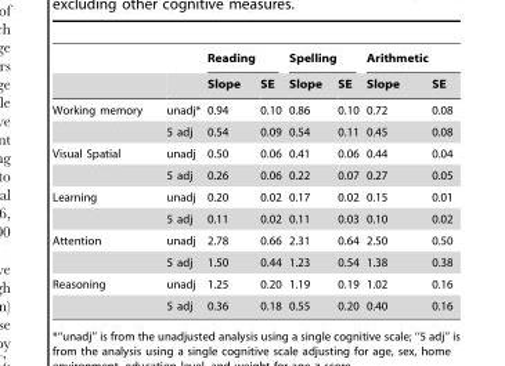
<table><thead><tr><td rowspan="2"></td><td rowspan="2"></td><td colspan="2">Reading</td><td colspan="2">Spelling</td><td colspan="2">Arithmetic</td></tr><tr><td>Slope</td><td>SE</td><td>Slope</td><td>SE</td><td>Slope</td><td>SE</td></tr></thead><tbody><tr><td rowspan="2">Working memory</td><td>unadj*</td><td>0.94</td><td>0.10</td><td>0.86</td><td>0.10</td><td>0.72</td><td>0.08</td></tr><tr><td>5 adj</td><td>0.54</td><td>0.09</td><td>0.54</td><td>0.11</td><td>0.45</td><td>0.08</td></tr><tr><td rowspan="2">Visual Spatial</td><td>unadj</td><td>0.50</td><td>0.06</td><td>0.41</td><td>0.06</td><td>0.44</td><td>0.04</td></tr><tr><td>5 adj</td><td>0.26</td><td>0.06</td><td>0.22</td><td>0.07</td><td>0.27</td><td>0.05</td></tr><tr><td rowspan="2">Learning</td><td>unadj</td><td>0.20</td><td>0.02</td><td>0.17</td><td>0.02</td><td>0.15</td><td>0.01</td></tr><tr><td>5 adj</td><td>0.11</td><td>0.02</td><td>0.11</td><td>0.03</td><td>0.10</td><td>0.02</td></tr><tr><td rowspan="2">Attention</td><td>unadj</td><td>2.78</td><td>0.66</td><td>2.31</td><td>0.64</td><td>2.50</td><td>0.50</td></tr><tr><td>5 adj</td><td>1.50</td><td>0.44</td><td>1.23</td><td>0.54</td><td>1.38</td><td>0.38</td></tr><tr><td rowspan="2">Reasoning</td><td>unadj</td><td>1.25</td><td>0.20</td><td>1.19</td><td>0.19</td><td>1.02</td><td>0.16</td></tr><tr><td>5 adj</td><td>0.36</td><td>0.18</td><td>0.55</td><td>0.20</td><td>0.40</td><td>0.16</td></tr></tbody></table>